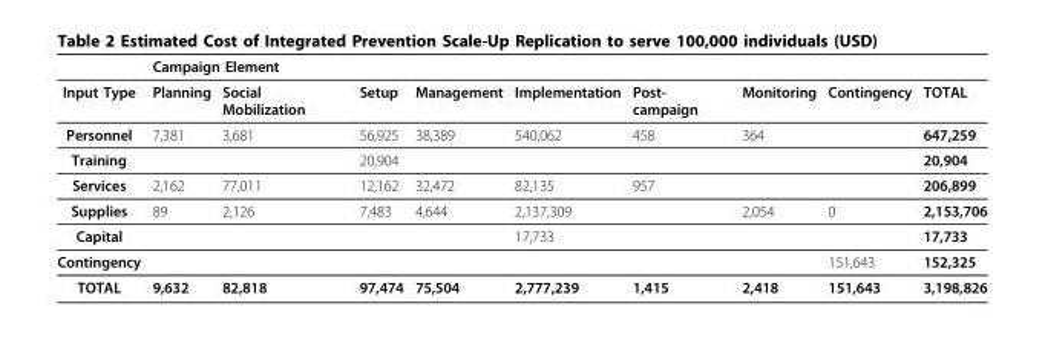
<table><thead><tr><td rowspan="2">Input Type</td><td colspan="2">Campaign Element</td><td rowspan="2">Setup</td><td rowspan="2">Management</td><td rowspan="2">Implementation</td><td rowspan="2">Post- campaign</td><td rowspan="2">Monitoring</td><td rowspan="2">Contingency</td><td rowspan="2">TOTAL</td></tr><tr><td>Planning</td><td>Social Mobilization</td></tr></thead><tbody><tr><td>Personnel</td><td>7,381</td><td>3,681</td><td>56,925</td><td>38,389</td><td>540,062</td><td>458</td><td>364</td><td></td><td>647,259</td></tr><tr><td>Training</td><td></td><td></td><td>20,904</td><td></td><td></td><td></td><td></td><td></td><td>20,904</td></tr><tr><td>Services</td><td>2,162</td><td>77,011</td><td>12,162</td><td>32,472</td><td>82,135</td><td>957</td><td></td><td></td><td>206,899</td></tr><tr><td>Supplies</td><td>89</td><td>2,126</td><td>7,483</td><td>4,644</td><td>2,137,309</td><td></td><td>2,054</td><td>0</td><td>2,153,706</td></tr><tr><td>Capital</td><td></td><td></td><td></td><td></td><td>17,733</td><td></td><td></td><td></td><td>17,733</td></tr><tr><td>Contingency</td><td></td><td></td><td></td><td></td><td></td><td></td><td></td><td>151,643</td><td>152,325</td></tr><tr><td>TOTAL</td><td>9,632</td><td>82,818</td><td>97,474</td><td>75,504</td><td>2,777,239</td><td>1,415</td><td>2,418</td><td>151,643</td><td>3,198,826</td></tr></tbody></table>